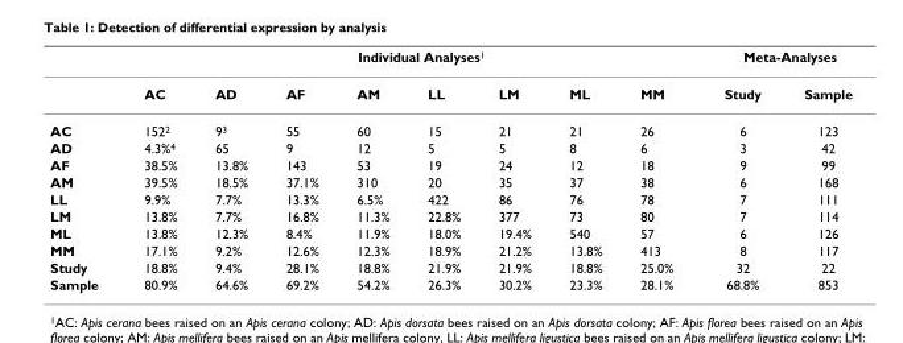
<table><thead><tr><td rowspan="2"></td><td colspan="8">Individual Analyses<sup>1</sup></td><td colspan="2">Meta-Analyses</td></tr><tr><td>AC</td><td>AD</td><td>AF</td><td>AM</td><td>LL</td><td>LM</td><td>ML</td><td>MM</td><td>Study</td><td>Sample</td></tr></thead><tbody><tr><td>AC</td><td>152<sup>2</sup></td><td>9<sup>3</sup></td><td>55</td><td>60</td><td>15</td><td>21</td><td>21</td><td>26</td><td>6</td><td>123</td></tr><tr><td>AD</td><td>4.3%<sup>4</sup></td><td>65</td><td>9</td><td>12</td><td>5</td><td>5</td><td>8</td><td>6</td><td>3</td><td>42</td></tr><tr><td>AF</td><td>38.5%</td><td>13.8%</td><td>143</td><td>53</td><td>19</td><td>24</td><td>12</td><td>18</td><td>9</td><td>99</td></tr><tr><td>AM</td><td>39.5%</td><td>18.5%</td><td>37.1%</td><td>310</td><td>20</td><td>35</td><td>37</td><td>38</td><td>6</td><td>168</td></tr><tr><td>LL</td><td>9.9%</td><td>7.7%</td><td>13.3%</td><td>6.5%</td><td>422</td><td>86</td><td>76</td><td>78</td><td>7</td><td>111</td></tr><tr><td>LM</td><td>13.8%</td><td>7.7%</td><td>16.8%</td><td>11.3%</td><td>22.8%</td><td>377</td><td>73</td><td>80</td><td>7</td><td>114</td></tr><tr><td>ML</td><td>13.8%</td><td>12.3%</td><td>8.4%</td><td>11.9%</td><td>18.0%</td><td>19.4%</td><td>540</td><td>57</td><td>6</td><td>126</td></tr><tr><td>MM</td><td>17.1%</td><td>9.2%</td><td>12.6%</td><td>12.3%</td><td>18.9%</td><td>21.2%</td><td>13.8%</td><td>413</td><td>8</td><td>117</td></tr><tr><td>Study</td><td>18.8%</td><td>9.4%</td><td>28.1%</td><td>18.8%</td><td>21.9%</td><td>21.9%</td><td>18.8%</td><td>25.0%</td><td>32</td><td>22</td></tr><tr><td>Sample</td><td>80.9%</td><td>64.6%</td><td>69.2%</td><td>54.2%</td><td>26.3%</td><td>30.2%</td><td>23.3%</td><td>28.1%</td><td>68.8%</td><td>853</td></tr></tbody></table>